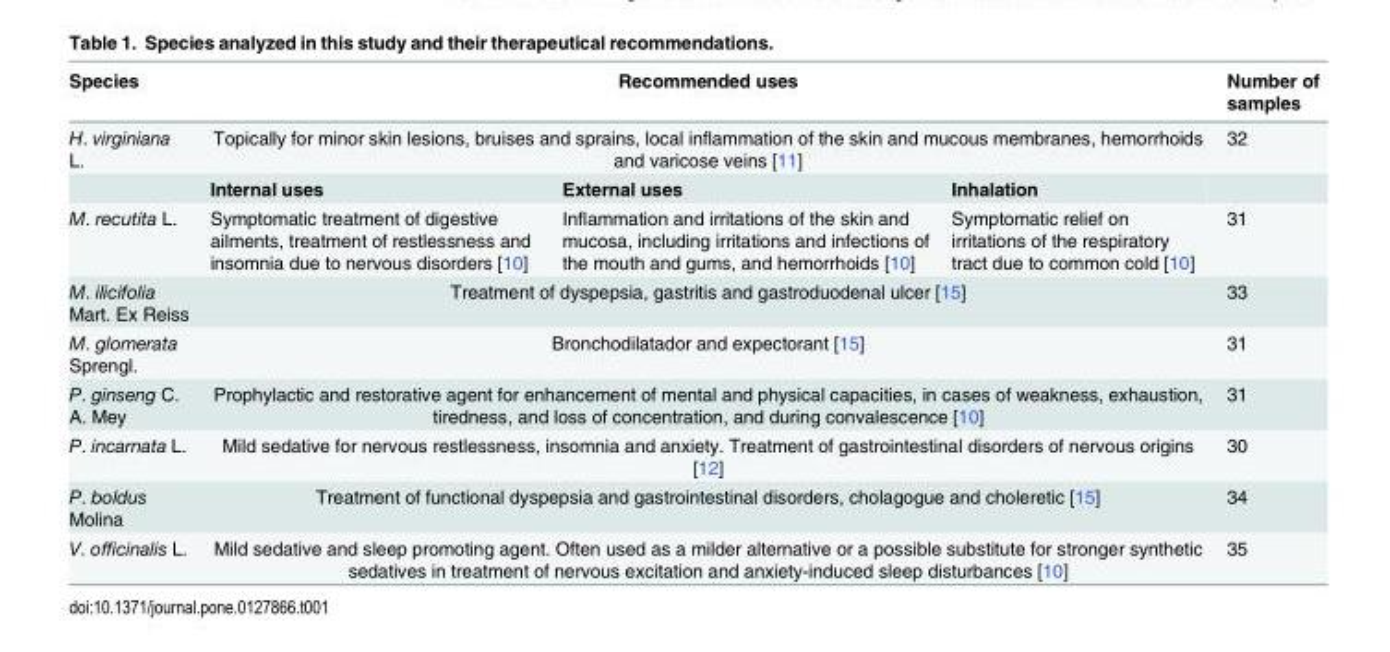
<table><thead><tr><td rowspan="3">Species H. virginiana L.</td><td rowspan="2" colspan="3">Recommended uses Topically for minor skin lesions, bruises and sprains, local inflammation of the skin and mucous membranes, hemorrhoids and varicose veins [11]</td><td rowspan="3">Number of samples 32</td></tr><tr></tr><tr><td>Internal uses</td><td>External uses</td><td>Inhalation</td></tr></thead><tbody><tr><td>M. recutita L.</td><td>Symptomatic treatment of digestive ailments, treatment of restlessness and insomnia due to nervous disorders [10]</td><td>Inflammation and irritations of the skin and mucosa, including irritations and infections of the mouth and gums, and hemorrhoids [10]</td><td>Symptomatic relief on irritations of the respiratory tract due to common cold [10]</td><td>31</td></tr><tr><td>M. ilicifolia Mart. Ex Reiss</td><td colspan="3">Treatment of dyspepsia, gastritis and gastroduodenal ulcer [15]</td><td>33</td></tr><tr><td>M. glomerata Sprengl.</td><td colspan="3">Bronchodilatador and expectorant [15]</td><td>31</td></tr><tr><td>P. ginseng C. A. Mey</td><td colspan="3">Prophylactic and restorative agent for enhancement of mental and physical capacities, in cases of weakness, exhaustion, tiredness, and loss of concentration, and during convalescence [10]</td><td>31</td></tr><tr><td>P. incarnata L.</td><td colspan="3">Mild sedative for nervous restlessness, insomnia and anxiety. Treatment of gastrointestinal disorders of nervous origins [12]</td><td>30</td></tr><tr><td>P. boldus Molina</td><td colspan="3">Treatment of functional dyspepsia and gastrointestinal disorders, cholagogue and choleretic [15]</td><td>34</td></tr><tr><td>V. officinalis L.</td><td colspan="3">Mild sedative and sleep promoting agent. Often used as a milder alternative or a possible substitute for stronger synthetic sedatives in treatment of nervous excitation and anxiety-induced sleep disturbances [10]</td><td>35</td></tr></tbody></table>